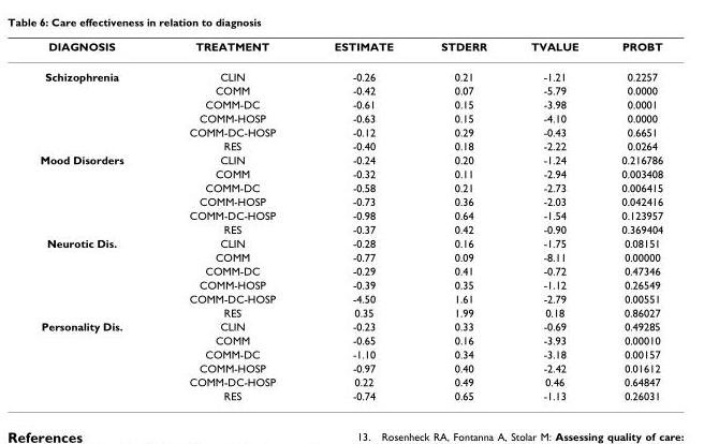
<table><thead><tr><td>DIAGNOSIS</td><td>TREATMENT</td><td>ESTIMATE</td><td>STDERR</td><td>TVALUE</td><td>PROBT</td></tr></thead><tbody><tr><td rowspan="6">Schizophrenia</td><td>CLIN</td><td>-0.26</td><td>0.21</td><td>-1.21</td><td>0.2257</td></tr><tr><td>COMM</td><td>-0.42</td><td>0.07</td><td>-5.79</td><td>0.0000</td></tr><tr><td>COMM-DC</td><td>-0.61</td><td>0.15</td><td>-3.98</td><td>0.0001</td></tr><tr><td>COMM-HOSP</td><td>-0.63</td><td>0.15</td><td>-4.10</td><td>0.0000</td></tr><tr><td>COMM-DC-HOSP</td><td>-0.12</td><td>0.29</td><td>-0.43</td><td>0.6651</td></tr><tr><td>RES</td><td>-0.40</td><td>0.18</td><td>-2.22</td><td>0.0264</td></tr><tr><td rowspan="6">Mood Disorders</td><td>CLIN</td><td>-0.24</td><td>0.20</td><td>-1.24</td><td>0.216786</td></tr><tr><td>COMM</td><td>-0.32</td><td>0.11</td><td>-2.94</td><td>0.003408</td></tr><tr><td>COMM-DC</td><td>-0.58</td><td>0.21</td><td>-2.73</td><td>0.006415</td></tr><tr><td>COMM-HOSP</td><td>-0.73</td><td>0.36</td><td>-2.03</td><td>0.042416</td></tr><tr><td>COMM-DC-HOSP</td><td>-0.98</td><td>0.64</td><td>-1.54</td><td>0.123957</td></tr><tr><td>RES</td><td>-0.37</td><td>0.42</td><td>-0.90</td><td>0.369404</td></tr><tr><td rowspan="6">Neurotic Dis.</td><td>CLIN</td><td>-0.28</td><td>0.16</td><td>-1.75</td><td>0.08151</td></tr><tr><td>COMM</td><td>-0.77</td><td>0.09</td><td>-8.11</td><td>0.00000</td></tr><tr><td>COMM-DC</td><td>-0.29</td><td>0.41</td><td>-0.72</td><td>0.47346</td></tr><tr><td>COMM-HOSP</td><td>-0.39</td><td>0.35</td><td>-1.12</td><td>0.26549</td></tr><tr><td>COMM-DC-HOSP</td><td>-4.50</td><td>1.61</td><td>-2.79</td><td>0.00551</td></tr><tr><td>RES</td><td>0.35</td><td>1.99</td><td>0.18</td><td>0.86027</td></tr><tr><td rowspan="6">Personality Dis.</td><td>CLIN</td><td>-0.23</td><td>0.33</td><td>-0.69</td><td>0.49285</td></tr><tr><td>COMM</td><td>-0.65</td><td>0.16</td><td>-3.93</td><td>0.00010</td></tr><tr><td>COMM-DC</td><td>-1.10</td><td>0.34</td><td>-3.18</td><td>0.00157</td></tr><tr><td>COMM-HOSP</td><td>-0.97</td><td>0.40</td><td>-2.42</td><td>0.01612</td></tr><tr><td>COMM-DC-HOSP</td><td>0.22</td><td>0.49</td><td>0.46</td><td>0.64847</td></tr><tr><td>RES</td><td>-0.74</td><td>0.65</td><td>-1.13</td><td>0.26031</td></tr></tbody></table>